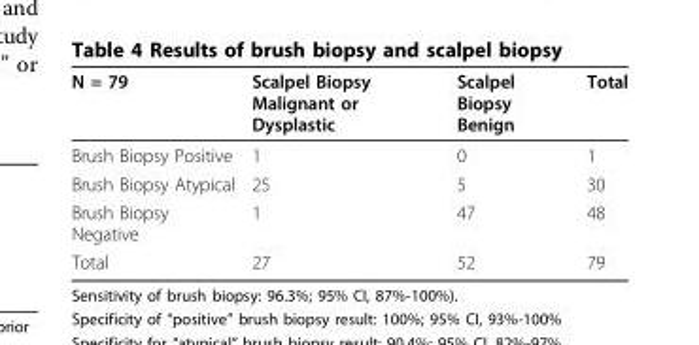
<table><thead><tr><td>N = 79</td><td>Scalpel Biopsy Malignant or Dysplastic</td><td>Scalpel Biopsy Benign</td><td>Total</td></tr></thead><tbody><tr><td>Brush Biopsy Positive</td><td>1</td><td>0</td><td>1</td></tr><tr><td>Brush Biopsy Atypical</td><td>25</td><td>5</td><td>30</td></tr><tr><td>Brush Biopsy Negative</td><td>1</td><td>47</td><td>48</td></tr><tr><td>Total</td><td>27</td><td>52</td><td>79</td></tr></tbody></table>